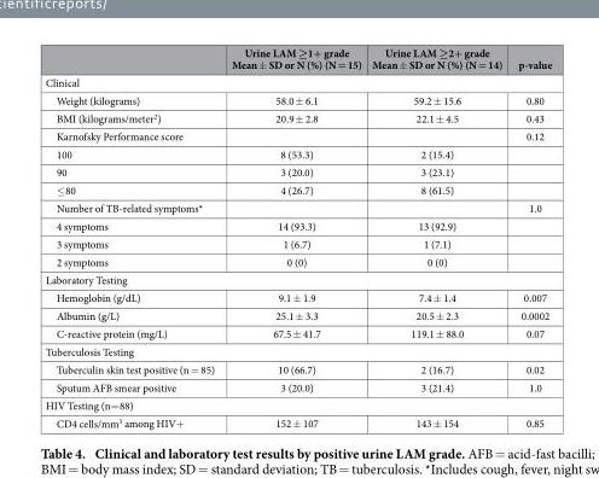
<table><thead><tr><td></td><td>Urine LAM ≥1+ grade Mean ± SD or N (%) (N = 15)</td><td>Urine LAM ≥2+ grade Mean ± SD or N (%) (N = 14)</td><td>p-value</td></tr></thead><tbody><tr><td colspan="4">Clinical</td></tr><tr><td>Weight (kilograms)</td><td>58.0 ± 6.1</td><td>59.2 ± 15.6</td><td>0.80</td></tr><tr><td>BMI (kilograms/meter<sup>2</sup>)</td><td>20.9 ± 2.8</td><td>22.1 ± 4.5</td><td>0.43</td></tr><tr><td>Karnofsky Performance score</td><td></td><td></td><td>0.12</td></tr><tr><td>100</td><td>8 (53.3)</td><td>2 (15.4)</td><td></td></tr><tr><td>90</td><td>3 (20.0)</td><td>3 (23.1)</td><td></td></tr><tr><td>≤ 80</td><td>4 (26.7)</td><td>8 (61.5)</td><td></td></tr><tr><td>Number of TB-related symptoms*</td><td></td><td></td><td>1.0</td></tr><tr><td>4 symptoms</td><td>14 (93.3)</td><td>13 (92.9)</td><td></td></tr><tr><td>3 symptoms</td><td>1 (6.7)</td><td>1 (7.1)</td><td></td></tr><tr><td>2 symptoms</td><td>0 (0)</td><td>0 (0)</td><td></td></tr><tr><td colspan="4">Laboratory Testing</td></tr><tr><td>Hemoglobin (g/dL)</td><td>9.1 ± 1.9</td><td>7.4 ± 1.4</td><td>0.007</td></tr><tr><td>Albumin (g/L)</td><td>25.1 ± 3.3</td><td>20.5 ± 2.3</td><td>0.0002</td></tr><tr><td>C-reactive protein (mg/L)</td><td>67.5 ± 41.7</td><td>119.1 ± 88.0</td><td>0.07</td></tr><tr><td colspan="4">Tuberculosis Testing</td></tr><tr><td>Tuberculin skin test positive (n = 85)</td><td>10 (66.7)</td><td>2 (16.7)</td><td>0.02</td></tr><tr><td>Sputum AFB smear positive</td><td>3 (20.0)</td><td>3 (21.4)</td><td>1.0</td></tr><tr><td colspan="4">HIV Testing (n= 88)</td></tr><tr><td>CD4 cells/mm<sup>3</sup> among HIV+</td><td>152 ± 107</td><td>143 ± 154</td><td>0.85</td></tr></tbody></table>